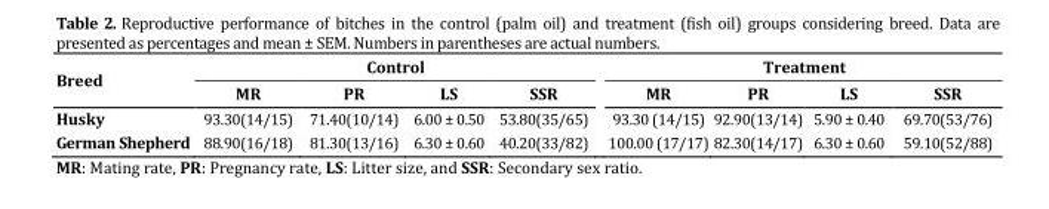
<table><thead><tr><td rowspan="2">Breed</td><td colspan="4">Control</td><td colspan="4">Treatment</td></tr><tr><td>MR</td><td>PR</td><td>LS</td><td>SSR</td><td>MR</td><td>PR</td><td>LS</td><td>SSR</td></tr></thead><tbody><tr><td>Husky</td><td>93.30(14/15)</td><td>71.40(10/14)</td><td>6.00 ± 0.50</td><td>53.80(35/65)</td><td>93.30 (14/15)</td><td>92.90(13/14)</td><td>5.90 ± 0.40</td><td>69.70(53/76)</td></tr><tr><td>German Shepherd</td><td>88.90(16/18)</td><td>81.30(13/16)</td><td>6.30 ± 0.60</td><td>40.20(33/82)</td><td>100.00 (17/17)</td><td>82.30(14/17)</td><td>6.30 ± 0.60</td><td>59.10(52/88)</td></tr></tbody></table>